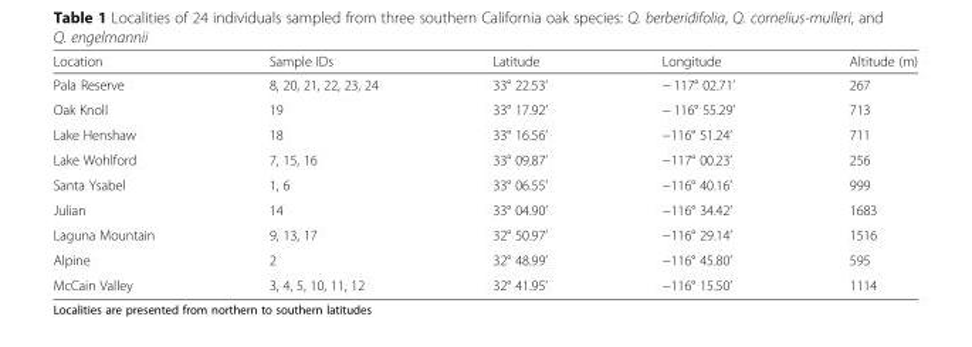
<table><thead><tr><td>Location</td><td>Sample IDs</td><td>Latitude</td><td>Longitude</td><td>Altitude (m)</td></tr></thead><tbody><tr><td>Pala Reserve</td><td>8, 20, 21, 22, 23, 24</td><td>33° 22.53’</td><td>− 117° 02.71’</td><td>267</td></tr><tr><td>Oak Knoll</td><td>19</td><td>33° 17.92’</td><td>− 116° 55.29’</td><td>713</td></tr><tr><td>Lake Henshaw</td><td>18</td><td>33° 16.56’</td><td>−116° 51.24’</td><td>711</td></tr><tr><td>Lake Wohlford</td><td>7, 15, 16</td><td>33° 09.87’</td><td>−117° 00.23’</td><td>256</td></tr><tr><td>Santa Ysabel</td><td>1, 6</td><td>33° 06.55’</td><td>−116° 40.16’</td><td>999</td></tr><tr><td>Julian</td><td>14</td><td>33° 04.90’</td><td>−116° 34.42’</td><td>1683</td></tr><tr><td>Laguna Mountain</td><td>9, 13, 17</td><td>32° 50.97’</td><td>−116° 29.14’</td><td>1516</td></tr><tr><td>Alpine</td><td>2</td><td>32° 48.99’</td><td>−116° 45.80’</td><td>595</td></tr><tr><td>McCain Valley</td><td>3, 4, 5, 10, 11, 12</td><td>32° 41.95’</td><td>−116° 15.50’</td><td>1114</td></tr></tbody></table>